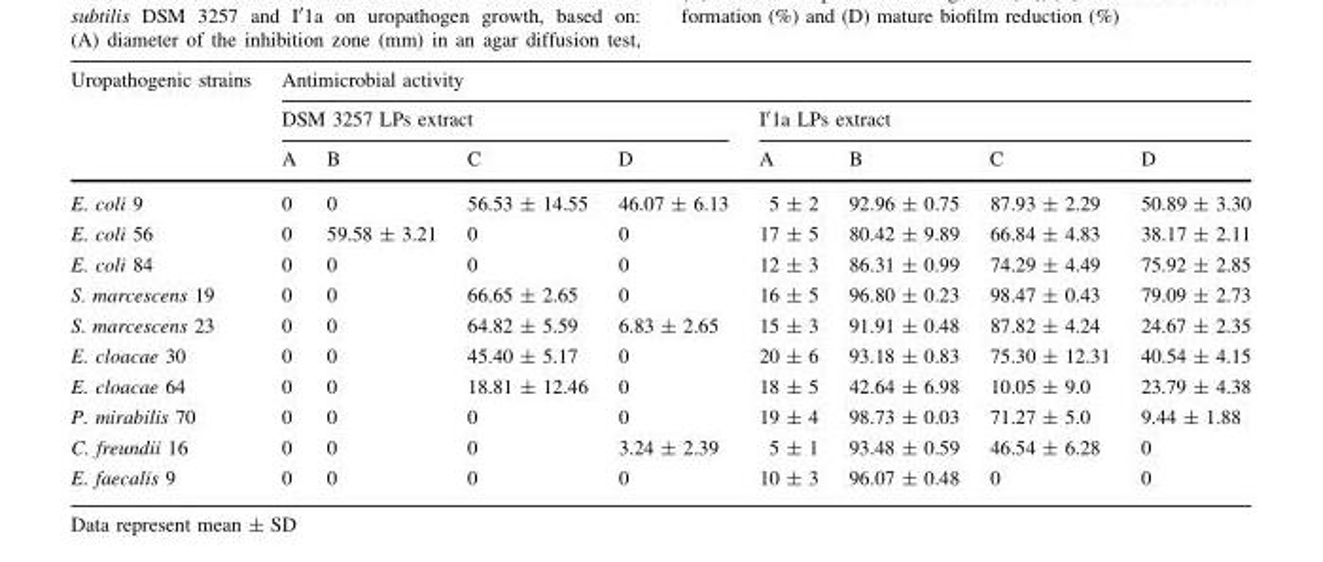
<table><thead><tr><td rowspan="3">Uropathogenic strains</td><td colspan="8">Antimicrobial activity</td></tr><tr><td colspan="4">DSM 3257 LPs extract</td><td colspan="4">I′1a LPs extract</td></tr><tr><td>A</td><td>B</td><td>C</td><td>D</td><td>A</td><td>B</td><td>C</td><td>D</td></tr></thead><tbody><tr><td>E. coli 9</td><td>0</td><td>0</td><td>56.53 ± 14.55</td><td>46.07 ± 6.13</td><td>5 ± 2</td><td>92.96 ± 0.75</td><td>87.93 ± 2.29</td><td>50.89 ± 3.30</td></tr><tr><td>E. coli 56</td><td>0</td><td>59.58 ± 3.21</td><td>0</td><td>0</td><td>17 ± 5</td><td>80.42 ± 9.89</td><td>66.84 ± 4.83</td><td>38.17 ± 2.11</td></tr><tr><td>E. coli 84</td><td>0</td><td>0</td><td>0</td><td>0</td><td>12 ± 3</td><td>86.31 ± 0.99</td><td>74.29 ± 4.49</td><td>75.92 ± 2.85</td></tr><tr><td>S. marcescens 19</td><td>0</td><td>0</td><td>66.65 ± 2.65</td><td>0</td><td>16 ± 5</td><td>96.80 ± 0.23</td><td>98.47 ± 0.43</td><td>79.09 ± 2.73</td></tr><tr><td>S. marcescens 23</td><td>0</td><td>0</td><td>64.82 ± 5.59</td><td>6.83 ± 2.65</td><td>15 ± 3</td><td>91.91 ± 0.48</td><td>87.82 ± 4.24</td><td>24.67 ± 2.35</td></tr><tr><td>E. cloacae 30</td><td>0</td><td>0</td><td>45.40 ± 5.17</td><td>0</td><td>20 ± 6</td><td>93.18 ± 0.83</td><td>75.30 ± 12.31</td><td>40.54 ± 4.15</td></tr><tr><td>E. cloacae 64</td><td>0</td><td>0</td><td>18.81 ± 12.46</td><td>0</td><td>18 ± 5</td><td>42.64 ± 6.98</td><td>10.05 ± 9.0</td><td>23.79 ± 4.38</td></tr><tr><td>P. mirabilis 70</td><td>0</td><td>0</td><td>0</td><td>0</td><td>19 ± 4</td><td>98.73 ± 0.03</td><td>71.27 ± 5.0</td><td>9.44 ± 1.88</td></tr><tr><td>C. freundii 16</td><td>0</td><td>0</td><td>0</td><td>3.24 ± 2.39</td><td>5 ± 1</td><td>93.48 ± 0.59</td><td>46.54 ± 6.28</td><td>0</td></tr><tr><td>E. faecalis 9</td><td>0</td><td>0</td><td>0</td><td>0</td><td>10 ± 3</td><td>96.07 ± 0.48</td><td>0</td><td>0</td></tr></tbody></table>